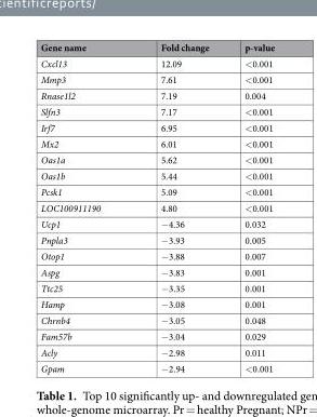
<table><thead><tr><td>Gene name</td><td>Fold change</td><td>p-value</td></tr></thead><tbody><tr><td>Cxcl13</td><td>12.09</td><td>&lt;0.001</td></tr><tr><td>Mmp3</td><td>7.61</td><td>&lt;0.001</td></tr><tr><td>Rnase1l2</td><td>7.19</td><td>0.004</td></tr><tr><td>Slfn3</td><td>7.17</td><td>&lt;0.001</td></tr><tr><td>Irf7</td><td>6.95</td><td>&lt;0.001</td></tr><tr><td>Mx2</td><td>6.01</td><td>&lt;0.001</td></tr><tr><td>Oas1a</td><td>5.62</td><td>&lt;0.001</td></tr><tr><td>Oas1b</td><td>5.44</td><td>&lt;0.001</td></tr><tr><td>Pcsk1</td><td>5.09</td><td>&lt;0.001</td></tr><tr><td>LOC100911190</td><td>4.80</td><td>&lt;0.001</td></tr><tr><td>Ucp1</td><td>−4.36</td><td>0.032</td></tr><tr><td>Pnpla3</td><td>−3.93</td><td>0.005</td></tr><tr><td>Otop1</td><td>−3.88</td><td>0.007</td></tr><tr><td>Aspg</td><td>−3.83</td><td>0.001</td></tr><tr><td>Ttc25</td><td>−3.35</td><td>0.001</td></tr><tr><td>Hamp</td><td>−3.08</td><td>0.001</td></tr><tr><td>Chrnb4</td><td>−3.05</td><td>0.048</td></tr><tr><td>Fam57b</td><td>−3.04</td><td>0.029</td></tr><tr><td>Acly</td><td>−2.98</td><td>0.011</td></tr><tr><td>Gpam</td><td>−2.94</td><td>&lt;0.001</td></tr></tbody></table>